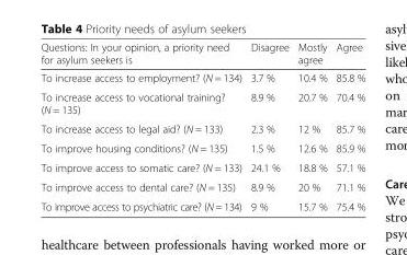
<table><thead><tr><td>Questions: In your opinion, a priority need for asylum seekers is</td><td>Disagree</td><td>Mostly agree</td><td>Agree</td></tr></thead><tbody><tr><td>To increase access to employment? (N = 134)</td><td>3.7 %</td><td>10.4 %</td><td>85.8 %</td></tr><tr><td>To increase access to vocational training? (N = 135)</td><td>8.9 %</td><td>20.7 %</td><td>70.4 %</td></tr><tr><td>To increase access to legal aid? (N = 133)</td><td>2.3 %</td><td>12 %</td><td>85.7 %</td></tr><tr><td>To improve housing conditions? (N = 135)</td><td>1.5 %</td><td>12.6 %</td><td>85.9 %</td></tr><tr><td>To improve access to somatic care? (N = 133)</td><td>24.1 %</td><td>18.8 %</td><td>57.1 %</td></tr><tr><td>To improve access to dental care? (N = 135)</td><td>8.9 %</td><td>20 %</td><td>71.1 %</td></tr><tr><td>To improve access to psychiatric care? (N = 134)</td><td>9 %</td><td>15.7 %</td><td>75.4 %</td></tr></tbody></table>